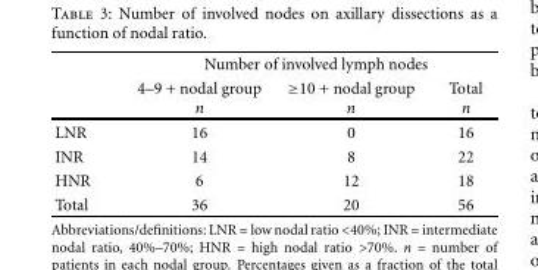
<table><thead><tr><td rowspan="2"></td><td colspan="3">Number of involved lymph nodes</td></tr><tr><td>4–9 + nodal group n</td><td>≥10 + nodal group n</td><td>Total n</td></tr></thead><tbody><tr><td>LNR</td><td>16</td><td>0</td><td>16</td></tr><tr><td>INR</td><td>14</td><td>8</td><td>22</td></tr><tr><td>HNR</td><td>6</td><td>12</td><td>18</td></tr><tr><td>Total</td><td>36</td><td>20</td><td>56</td></tr></tbody></table>